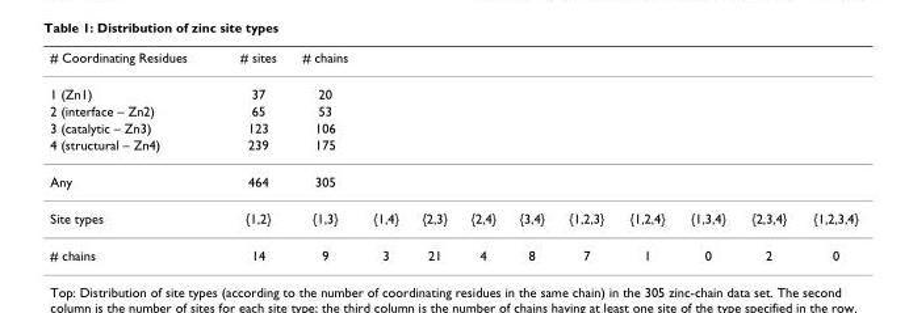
<table><thead><tr><td># Coordinating Residues</td><td># sites</td><td># chains</td><td></td><td></td><td></td><td></td><td></td><td></td><td></td><td></td><td></td></tr></thead><tbody><tr><td>1 (Zn1)</td><td>37</td><td>20</td><td></td><td></td><td></td><td></td><td></td><td></td><td></td><td></td><td></td></tr><tr><td>2 (interface – Zn2)</td><td>65</td><td>53</td><td></td><td></td><td></td><td></td><td></td><td></td><td></td><td></td><td></td></tr><tr><td>3 (catalytic – Zn3)</td><td>123</td><td>106</td><td></td><td></td><td></td><td></td><td></td><td></td><td></td><td></td><td></td></tr><tr><td>4 (structural – Zn4)</td><td>239</td><td>175</td><td></td><td></td><td></td><td></td><td></td><td></td><td></td><td></td><td></td></tr><tr><td>Any</td><td>464</td><td>305</td><td></td><td></td><td></td><td></td><td></td><td></td><td></td><td></td><td></td></tr><tr><td>Site types</td><td>{1,2}</td><td>{1,3}</td><td>{1,4}</td><td>{2,3}</td><td>{2,4}</td><td>{3,4}</td><td>{1,2,3}</td><td>{1,2,4}</td><td>{1,3,4}</td><td>{2,3,4}</td><td>{1,2,3,4}</td></tr><tr><td># chains</td><td>14</td><td>9</td><td>3</td><td>21</td><td>4</td><td>8</td><td>7</td><td>1</td><td>0</td><td>2</td><td>0</td></tr></tbody></table>